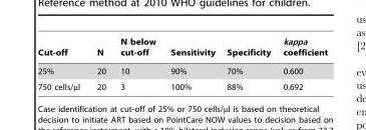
<table><thead><tr><td>Cut-off</td><td>N</td><td>N below cut-off</td><td>Sensitivity</td><td>Specificity</td><td>kappa coefficient</td></tr></thead><tbody><tr><td>25%</td><td>20</td><td>10</td><td>90%</td><td>70%</td><td>0.600</td></tr><tr><td>750 cells/µl</td><td>20</td><td>3</td><td>100%</td><td>88%</td><td>0.692</td></tr></tbody></table>